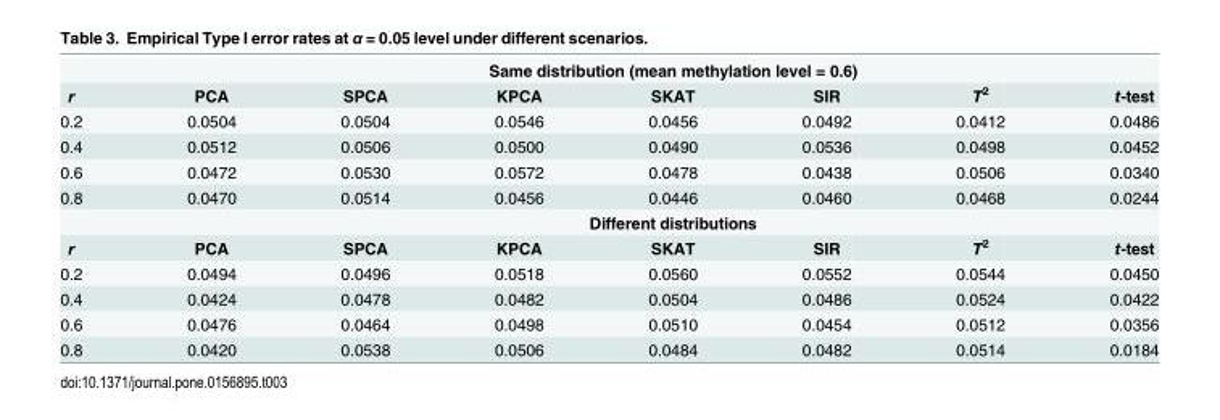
<table><thead><tr><td rowspan="2">r</td><td colspan="7">Same distribution (mean methylation level = 0.6)</td></tr><tr><td>PCA</td><td>SPCA</td><td>KPCA</td><td>SKAT</td><td>SIR</td><td>T<sup>2</sup></td><td>t-test</td></tr></thead><tbody><tr><td>0.2</td><td>0.0504</td><td>0.0504</td><td>0.0546</td><td>0.0456</td><td>0.0492</td><td>0.0412</td><td>0.0486</td></tr><tr><td>0.4</td><td>0.0512</td><td>0.0506</td><td>0.0500</td><td>0.0490</td><td>0.0536</td><td>0.0498</td><td>0.0452</td></tr><tr><td>0.6</td><td>0.0472</td><td>0.0530</td><td>0.0572</td><td>0.0478</td><td>0.0438</td><td>0.0506</td><td>0.0340</td></tr><tr><td rowspan="2">0.8</td><td>0.0470</td><td>0.0514</td><td>0.0456</td><td>0.0446</td><td>0.0460</td><td>0.0468</td><td>0.0244</td></tr><tr><td colspan="7">Different distributions</td></tr><tr><td>r</td><td>PCA</td><td>SPCA</td><td>KPCA</td><td>SKAT</td><td>SIR</td><td>T<sup>2</sup></td><td>t-test</td></tr><tr><td>0.2</td><td>0.0494</td><td>0.0496</td><td>0.0518</td><td>0.0560</td><td>0.0552</td><td>0.0544</td><td>0.0450</td></tr><tr><td>0.4</td><td>0.0424</td><td>0.0478</td><td>0.0482</td><td>0.0504</td><td>0.0486</td><td>0.0524</td><td>0.0422</td></tr><tr><td>0.6</td><td>0.0476</td><td>0.0464</td><td>0.0498</td><td>0.0510</td><td>0.0454</td><td>0.0512</td><td>0.0356</td></tr><tr><td>0.8</td><td>0.0420</td><td>0.0538</td><td>0.0506</td><td>0.0484</td><td>0.0482</td><td>0.0514</td><td>0.0184</td></tr></tbody></table>